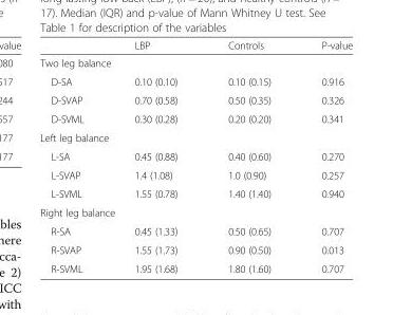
<table><thead><tr><td></td><td>LBP</td><td>Controls</td><td>P-value</td></tr></thead><tbody><tr><td colspan="4">Two leg balance</td></tr><tr><td>D-SA</td><td>0.10 (0.10)</td><td>0.10 (0.15)</td><td>0.916</td></tr><tr><td>D-SVAP</td><td>0.70 (0.58)</td><td>0.50 (0.35)</td><td>0.326</td></tr><tr><td>D-SVML</td><td>0.30 (0.28)</td><td>0.20 (0.20)</td><td>0.341</td></tr><tr><td colspan="4">Left leg balance</td></tr><tr><td>L-SA</td><td>0.45 (0.88)</td><td>0.40 (0.60)</td><td>0.270</td></tr><tr><td>L-SVAP</td><td>1.4 (1.08)</td><td>1.0 (0.90)</td><td>0.257</td></tr><tr><td>L-SVML</td><td>1.55 (0.78)</td><td>1.40 (1.40)</td><td>0.940</td></tr><tr><td colspan="4">Right leg balance</td></tr><tr><td>R-SA</td><td>0.45 (1.33)</td><td>0.50 (0.65)</td><td>0.707</td></tr><tr><td>R-SVAP</td><td>1.55 (1.73)</td><td>0.90 (0.50)</td><td>0.013</td></tr><tr><td>R-SVML</td><td>1.95 (1.68)</td><td>1.80 (1.60)</td><td>0.707</td></tr></tbody></table>